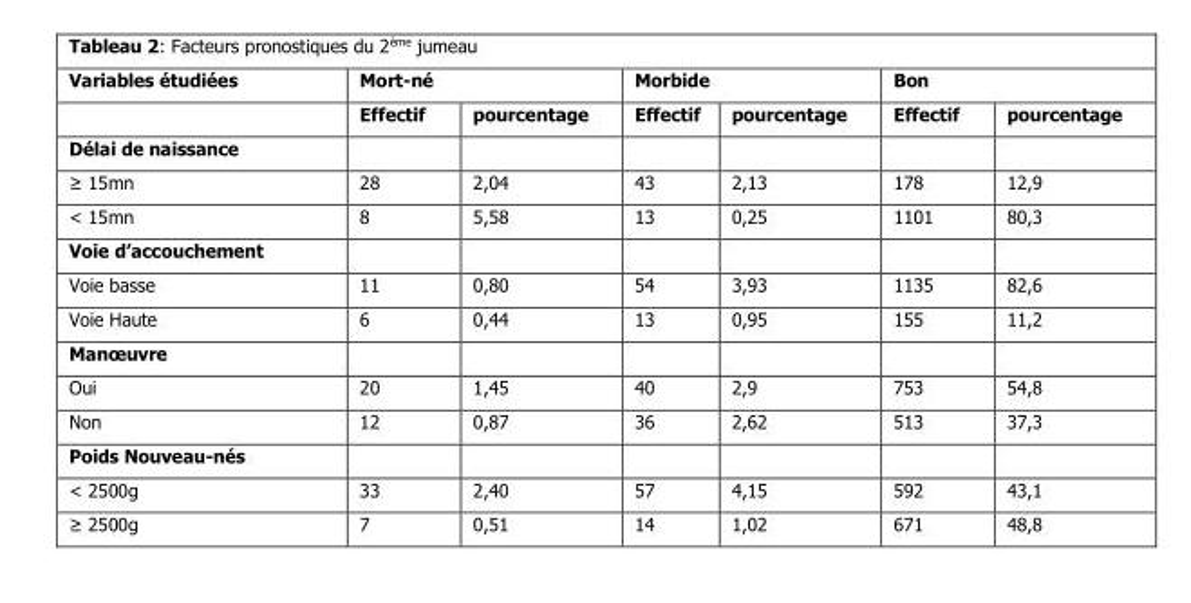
<table><thead><tr><td rowspan="2">Variables étudiées</td><td colspan="2">Mort-né</td><td colspan="2">Morbide</td><td colspan="2">Bon</td></tr><tr><td>Effectif</td><td>pourcentage</td><td>Effectif</td><td>pourcentage</td><td>Effectif</td><td>pourcentage</td></tr></thead><tbody><tr><td colspan="7">Délai de naissance</td></tr><tr><td>≥ 15mn</td><td>28</td><td>2,04</td><td>43</td><td>2,13</td><td>178</td><td>12,9</td></tr><tr><td>&lt; 15mn</td><td>8</td><td>5,58</td><td>13</td><td>0,25</td><td>1101</td><td>80,3</td></tr><tr><td colspan="7">Voie d’accouchement</td></tr><tr><td>Voie basse</td><td>11</td><td>0,80</td><td>54</td><td>3,93</td><td>1135</td><td>82,6</td></tr><tr><td>Voie Haute</td><td>6</td><td>0,44</td><td>13</td><td>0,95</td><td>155</td><td>11,2</td></tr><tr><td colspan="7">Manœuvre</td></tr><tr><td>Oui</td><td>20</td><td>1,45</td><td>40</td><td>2,9</td><td>753</td><td>54,8</td></tr><tr><td>Non</td><td>12</td><td>0,87</td><td>36</td><td>2,62</td><td>513</td><td>37,3</td></tr><tr><td colspan="7">Poids Nouveau-nés</td></tr><tr><td>&lt; 2500g</td><td>33</td><td>2,40</td><td>57</td><td>4,15</td><td>592</td><td>43,1</td></tr><tr><td>≥ 2500g</td><td>7</td><td>0,51</td><td>14</td><td>1,02</td><td>671</td><td>48,8</td></tr></tbody></table>